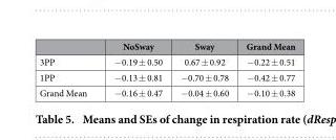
<table><thead><tr><td></td><td>NoSway</td><td>Sway</td><td>Grand Mean</td></tr></thead><tbody><tr><td>3PP</td><td>− 0.19 ± 0.50</td><td>0.67 ± 0.92</td><td>− 0.22 ± 0.51</td></tr><tr><td>1PP</td><td>− 0.13 ± 0.81</td><td>− 0.70 ± 0.78</td><td>− 0.42 ± 0.77</td></tr><tr><td>Grand Mean</td><td>− 0.16 ± 0.47</td><td>− 0.04 ± 0.60</td><td>− 0.10 ± 0.38</td></tr></tbody></table>